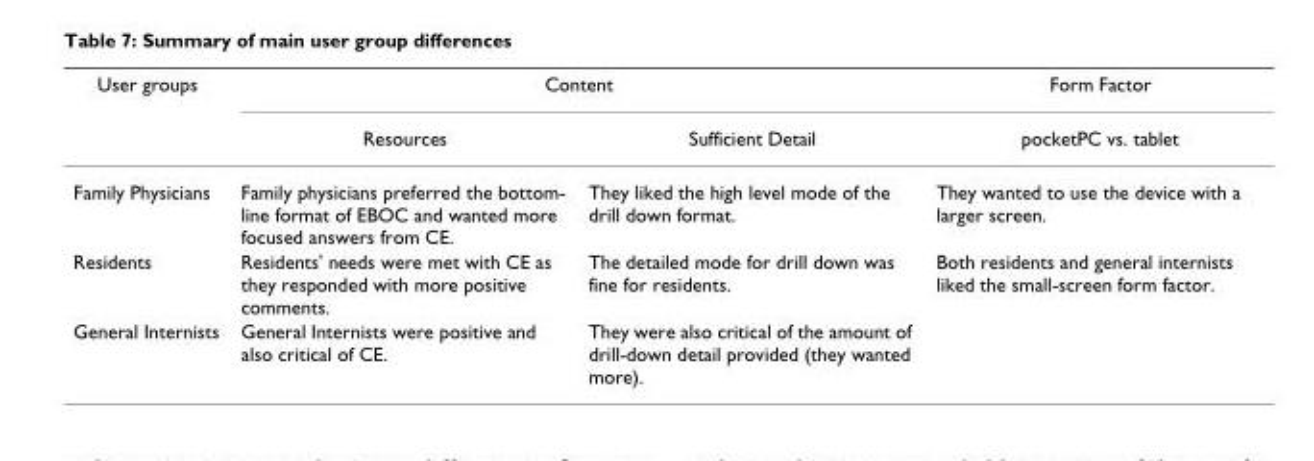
<table><thead><tr><td rowspan="2">User groups</td><td colspan="2">Content</td><td rowspan="2">Form Factor pocketPC vs. tablet</td></tr><tr><td>Resources</td><td>Sufficient Detail</td></tr></thead><tbody><tr><td>Family Physicians</td><td>Family physicians preferred the bottom- line format of EBOC and wanted more focused answers from CE.</td><td>They liked the high level mode of the drill down format.</td><td>They wanted to use the device with a larger screen.</td></tr><tr><td>Residents</td><td>Residents&#x27; needs were met with CE as they responded with more positive comments.</td><td>The detailed mode for drill down was fine for residents.</td><td>Both residents and general internists liked the small-screen form factor.</td></tr><tr><td>General Internists</td><td>General Internists were positive and also critical of CE.</td><td>They were also critical of the amount of drill-down detail provided (they wanted more).</td><td></td></tr></tbody></table>